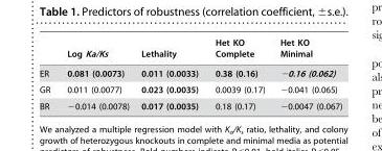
<table><thead><tr><td></td><td>Log Ka/Ks</td><td>Lethality</td><td>Het KO Complete</td><td>Het KO Minimal</td></tr></thead><tbody><tr><td>ER</td><td>0.081 (0.0073)</td><td>0.011 (0.0033)</td><td>0.38 (0.16)</td><td>−0.16 (0.062)</td></tr><tr><td>GR</td><td>0.011 (0.0077)</td><td>0.023 (0.0035)</td><td>0.0039 (0.17)</td><td>−0.041 (0.065)</td></tr><tr><td>BR</td><td>−0.014 (0.0078)</td><td>0.017 (0.0035)</td><td>0.18 (0.17)</td><td>−0.0047 (0.067)</td></tr></tbody></table>